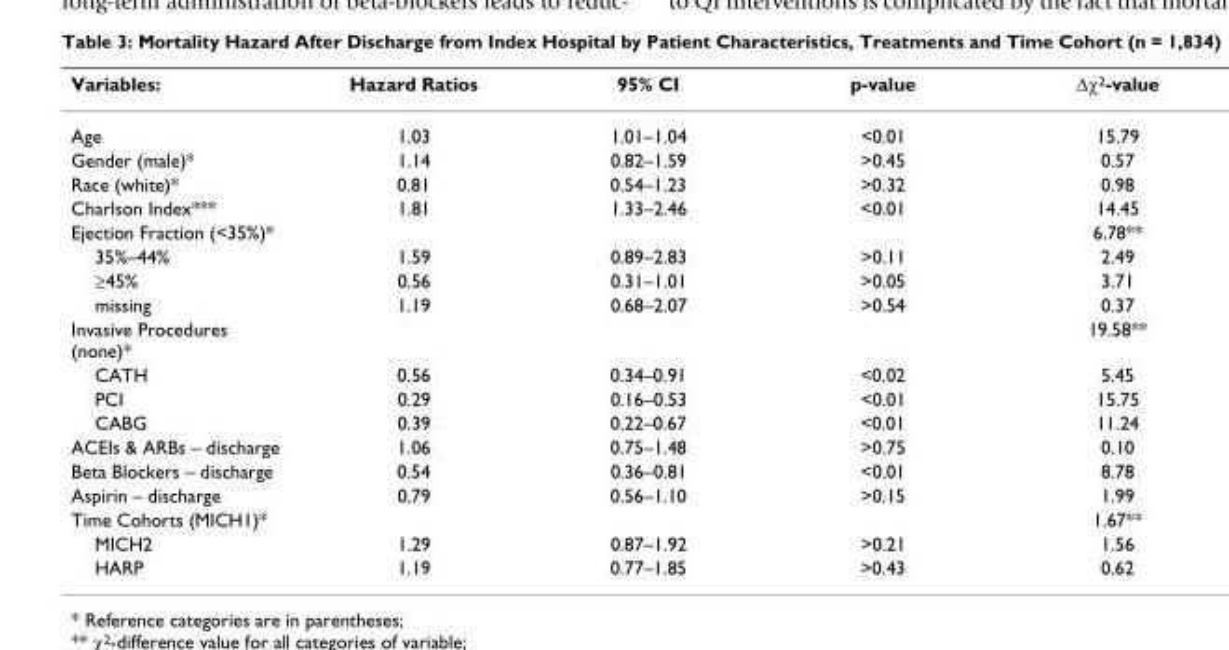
<table><thead><tr><td>Variables:</td><td>Hazard Ratios</td><td>95% CI</td><td>p-value</td><td>∆χ2-value</td></tr></thead><tbody><tr><td>Age</td><td>1.03</td><td>1.01–1.04</td><td>&lt;0.01</td><td>15.79</td></tr><tr><td>Gender (male)*</td><td>1.14</td><td>0.82–1.59</td><td>&gt;0.45</td><td>0.57</td></tr><tr><td>Race (white)*</td><td>0.81</td><td>0.54–1.23</td><td>&gt;0.32</td><td>0.98</td></tr><tr><td>Charlson Index***</td><td>1.81</td><td>1.33–2.46</td><td>&lt;0.01</td><td>14.45</td></tr><tr><td>Ejection Fraction (&lt;35%)*</td><td></td><td></td><td></td><td>6.78**</td></tr><tr><td>35%–44%</td><td>1.59</td><td>0.89–2.83</td><td>&gt;0.11</td><td>2.49</td></tr><tr><td>≥45%</td><td>0.56</td><td>0.31–1.01</td><td>&gt;0.05</td><td>3.71</td></tr><tr><td>missing</td><td>1.19</td><td>0.68–2.07</td><td>&gt;0.54</td><td>0.37</td></tr><tr><td>Invasive Procedures (none)*</td><td></td><td></td><td></td><td>19.58**</td></tr><tr><td>CATH</td><td>0.56</td><td>0.34–0.91</td><td>&lt;0.02</td><td>5.45</td></tr><tr><td>PCI</td><td>0.29</td><td>0.16–0.53</td><td>&lt;0.01</td><td>15.75</td></tr><tr><td>CABG</td><td>0.39</td><td>0.22–0.67</td><td>&lt;0.01</td><td>11.24</td></tr><tr><td>ACEIs &amp; ARBs – discharge</td><td>1.06</td><td>0.75–1.48</td><td>&gt;0.75</td><td>0.10</td></tr><tr><td>Beta Blockers – discharge</td><td>0.54</td><td>0.36–0.81</td><td>&lt;0.01</td><td>8.78</td></tr><tr><td>Aspirin – discharge</td><td>0.79</td><td>0.56–1.10</td><td>&gt;0.15</td><td>1.99</td></tr><tr><td>Time Cohorts (MICH1)*</td><td></td><td></td><td></td><td>1.67**</td></tr><tr><td>MICH2</td><td>1.29</td><td>0.87–1.92</td><td>&gt;0.21</td><td>1.56</td></tr><tr><td>HARP</td><td>1.19</td><td>0.77–1.85</td><td>&gt;0.43</td><td>0.62</td></tr></tbody></table>